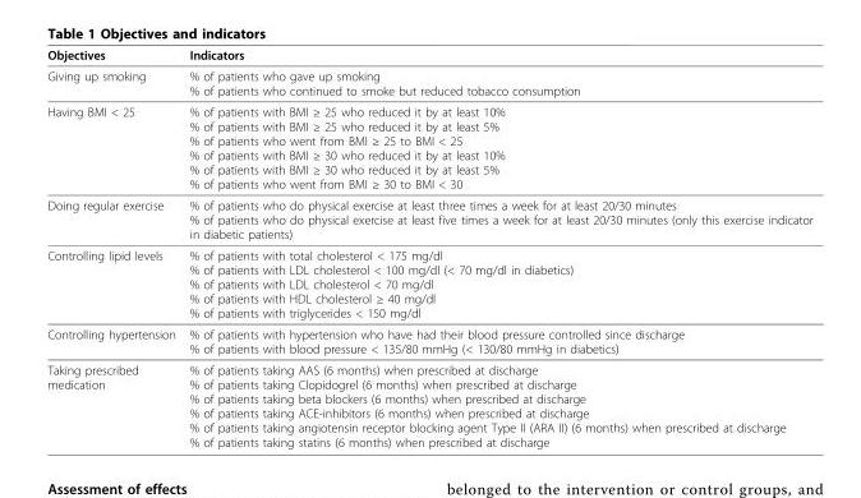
<table><thead><tr><td>Objectives</td><td>Indicators</td></tr></thead><tbody><tr><td>Giving up smoking</td><td>% of patients who gave up smoking % of patients who continued to smoke but reduced tobacco consumption</td></tr><tr><td>Having BMI &lt; 25</td><td>% of patients with BMI ≥ 25 who reduced it by at least 10% % of patients with BMI ≥ 25 who reduced it by at least 5% % of patients who went from BMI ≥ 25 to BMI &lt; 25 % of patients with BMI ≥ 30 who reduced it by at least 10% % of patients with BMI ≥ 30 who reduced it by at least 5% % of patients who went from BMI ≥ 30 to BMI &lt; 30</td></tr><tr><td>Doing regular exercise</td><td>% of patients who do physical exercise at least three times a week for at least 20/30 minutes % of patients who do physical exercise at least five times a week for at least 20/30 minutes (only this exercise indicator in diabetic patients)</td></tr><tr><td>Controlling lipid levels</td><td>% of patients with total cholesterol &lt; 175 mg/dl % of patients with LDL cholesterol &lt; 100 mg/dl (&lt; 70 mg/dl in diabetics) % of patients with LDL cholesterol &lt; 70 mg/dl % of patients with HDL cholesterol ≥ 40 mg/dl % of patients with triglycerides &lt; 150 mg/dl</td></tr><tr><td>Controlling hypertension</td><td>% of patients with hypertension who have had their blood pressure controlled since discharge % of patients with blood pressure &lt; 135/80 mmHg (&lt; 130/80 mmHg in diabetics)</td></tr><tr><td>Taking prescribed medication</td><td>% of patients taking AAS (6 months) when prescribed at discharge % of patients taking Clopidogrel (6 months) when prescribed at discharge % of patients taking beta blockers (6 months) when prescribed at discharge % of patients taking ACE-inhibitors (6 months) when prescribed at discharge % of patients taking angiotensin receptor blocking agent Type II (ARA II) (6 months) when prescribed at discharge % of patients taking statins (6 months) when prescribed at discharge</td></tr></tbody></table>